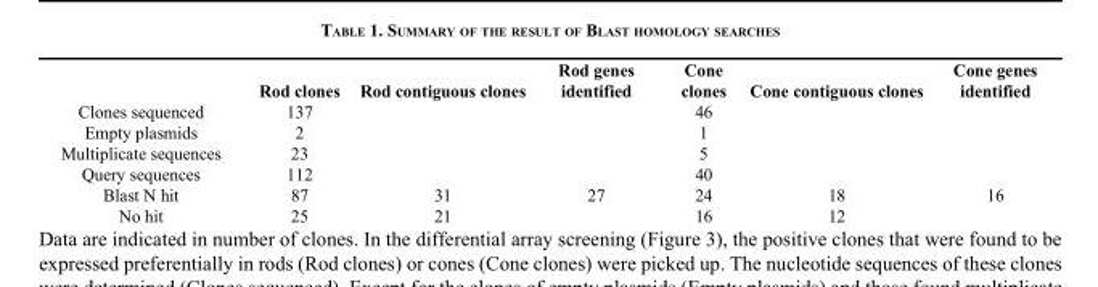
<table><thead><tr><td></td><td>Rod clones</td><td>Rod contiguous clones</td><td>Rod genes identified</td><td>Cone clones</td><td>Cone contiguous clones</td><td>Cone genes identified</td></tr></thead><tbody><tr><td>Clones sequenced</td><td>137</td><td></td><td></td><td>46</td><td></td><td></td></tr><tr><td>Empty plasmids</td><td>2</td><td></td><td></td><td>1</td><td></td><td></td></tr><tr><td>Multiplicate sequences</td><td>23</td><td></td><td></td><td>5</td><td></td><td></td></tr><tr><td>Query sequences</td><td>112</td><td></td><td></td><td>40</td><td></td><td></td></tr><tr><td>Blast N hit</td><td>87</td><td>31</td><td>27</td><td>24</td><td>18</td><td>16</td></tr><tr><td>No hit</td><td>25</td><td>21</td><td></td><td>16</td><td>12</td><td></td></tr></tbody></table>